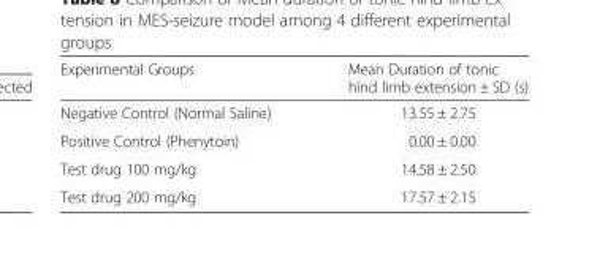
<table><thead><tr><td>Experimental Groups</td><td>Mean Duration of tonic hind limb extension ± SD (s)</td></tr></thead><tbody><tr><td>Negative Control (Normal Saline)</td><td>13.55 ± 2.75</td></tr><tr><td>Positive Control (Phenytoin)</td><td>0.00 ± 0.00</td></tr><tr><td>Test drug 100 mg/kg</td><td>14.58 ± 2.50</td></tr><tr><td>Test drug 200 mg/kg</td><td>17.57 ± 2.15</td></tr></tbody></table>